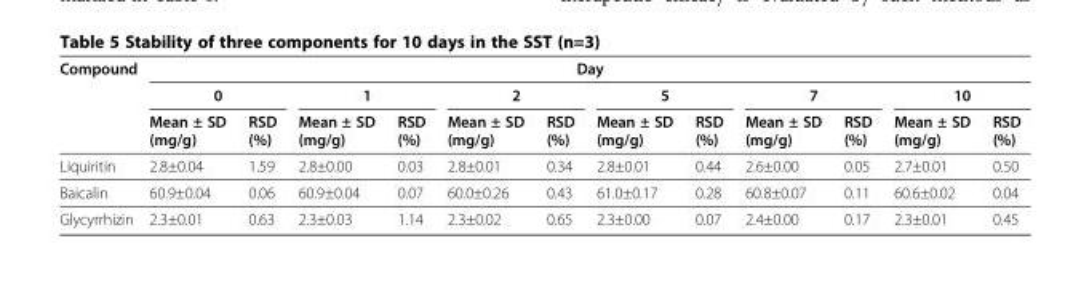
<table><thead><tr><td rowspan="3">Compound</td><td colspan="12">Day</td></tr><tr><td colspan="2">0</td><td colspan="2">1</td><td colspan="2">2</td><td colspan="2">5</td><td colspan="2">7</td><td colspan="2">10</td></tr><tr><td>Mean ± SD (mg/g)</td><td>RSD (%)</td><td>Mean ± SD (mg/g)</td><td>RSD (%)</td><td>Mean ± SD (mg/g)</td><td>RSD (%)</td><td>Mean ± SD (mg/g)</td><td>RSD (%)</td><td>Mean ± SD (mg/g)</td><td>RSD (%)</td><td>Mean ± SD (mg/g)</td><td>RSD (%)</td></tr></thead><tbody><tr><td>Liquiritin</td><td>2.8±0.04</td><td>1.59</td><td>2.8±0.00</td><td>0.03</td><td>2.8±0.01</td><td>0.34</td><td>2.8±0.01</td><td>0.44</td><td>2.6±0.00</td><td>0.05</td><td>2.7±0.01</td><td>0.50</td></tr><tr><td>Baicalin</td><td>60.9±0.04</td><td>0.06</td><td>60.9±0.04</td><td>0.07</td><td>60.0±0.26</td><td>0.43</td><td>61.0±0.17</td><td>0.28</td><td>60.8±0.07</td><td>0.11</td><td>60.6±0.02</td><td>0.04</td></tr><tr><td>Glycyrrhizin</td><td>2.3±0.01</td><td>0.63</td><td>2.3±0.03</td><td>1.14</td><td>2.3±0.02</td><td>0.65</td><td>2.3±0.00</td><td>0.07</td><td>2.4±0.00</td><td>0.17</td><td>2.3±0.01</td><td>0.45</td></tr></tbody></table>